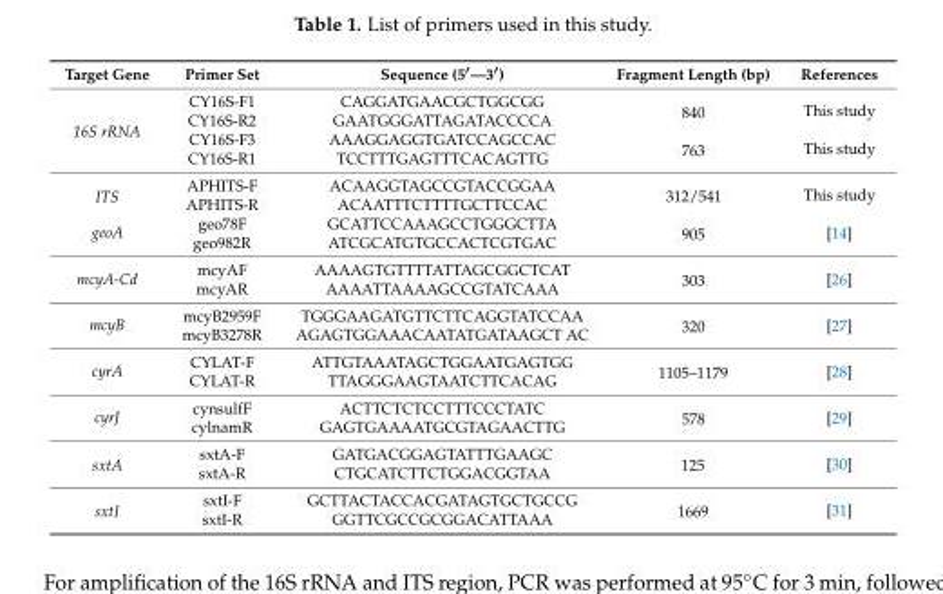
<table><thead><tr><td>Target Gene</td><td>Primer Set</td><td>Sequence (5′—3′)</td><td>Fragment Length (bp)</td><td>References</td></tr></thead><tbody><tr><td rowspan="4">16S rRNA</td><td>CY16S-F1</td><td>CAGGATGAACGCTGGCGG</td><td rowspan="2">840</td><td rowspan="2">This study</td></tr><tr><td>CY16S-R2</td><td>GAATGGGATTAGATACCCCA</td></tr><tr><td>CY16S-F3</td><td>AAAGGAGGTGATCCAGCCAC</td><td rowspan="2">763</td><td rowspan="2">This study</td></tr><tr><td>CY16S-R1</td><td>TCCTTTGAGTTTCACAGTTG</td></tr><tr><td rowspan="2">ITS</td><td>APHITS-F</td><td>ACAAGGTAGCCGTACCGGAA</td><td rowspan="2">312/541</td><td rowspan="2">This study</td></tr><tr><td>APHITS-R</td><td>ACAATTTCTTTTGCTTCCAC</td></tr><tr><td rowspan="2">geoA</td><td>geo78F</td><td>GCATTCCAAAGCCTGGGCTTA</td><td rowspan="2">905</td><td rowspan="2">[14]</td></tr><tr><td>geo982R</td><td>ATCGCATGTGCCACTCGTGAC</td></tr><tr><td rowspan="2">mcyA-Cd</td><td>mcyAF</td><td>AAAAGTGTTTTATTAGCGGCTCAT</td><td rowspan="2">303</td><td rowspan="2">[26]</td></tr><tr><td>mcyAR</td><td>AAAATTAAAAGCCGTATCAAA</td></tr><tr><td rowspan="2">mcyB</td><td>mcyB2959F</td><td>TGGGAAGATGTTCTTCAGGTATCCAA</td><td rowspan="2">320</td><td rowspan="2">[27]</td></tr><tr><td>mcyB3278R</td><td>AGAGTGGAAACAATATGATAAGCT AC</td></tr><tr><td rowspan="2">cyrA</td><td>CYLAT-F</td><td>ATTGTAAATAGCTGGAATGAGTGG</td><td rowspan="2">1105–1179</td><td rowspan="2">[28]</td></tr><tr><td>CYLAT-R</td><td>TTAGGGAAGTAATCTTCACAG</td></tr><tr><td rowspan="2">cyrJ</td><td>cynsulfF</td><td>ACTTCTCTCCTTTCCCTATC</td><td rowspan="2">578</td><td rowspan="2">[29]</td></tr><tr><td>cylnamR</td><td>GAGTGAAAATGCGTAGAACTTG</td></tr><tr><td rowspan="2">sxtA</td><td>sxtA-F</td><td>GATGACGGAGTATTTGAAGC</td><td rowspan="2">125</td><td rowspan="2">[30]</td></tr><tr><td>sxtA-R</td><td>CTGCATCTTCTGGACGGTAA</td></tr><tr><td rowspan="2">sxtI</td><td>sxtI-F</td><td>GCTTACTACCACGATAGTGCTGCCG</td><td rowspan="2">1669</td><td rowspan="2">[31]</td></tr><tr><td>sxtI-R</td><td>GGTTCGCCGCGGACATTAAA</td></tr></tbody></table>